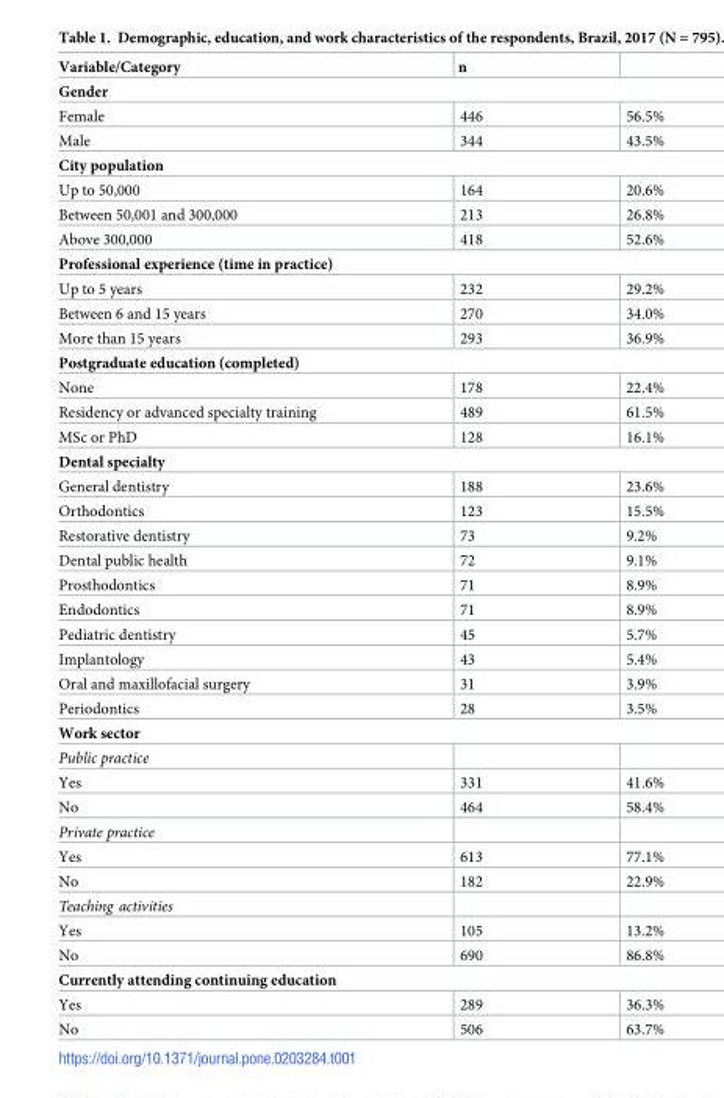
<table><thead><tr><td>Variable/Category</td><td>n</td><td></td></tr></thead><tbody><tr><td colspan="3">Gender</td></tr><tr><td>Female</td><td>446</td><td>56.5%</td></tr><tr><td>Male</td><td>344</td><td>43.5%</td></tr><tr><td colspan="3">City population</td></tr><tr><td>Up to 50,000</td><td>164</td><td>20.6%</td></tr><tr><td>Between 50,001 and 300,000</td><td>213</td><td>26.8%</td></tr><tr><td>Above 300,000</td><td>418</td><td>52.6%</td></tr><tr><td colspan="3">Professional experience (time in practice)</td></tr><tr><td>Up to 5 years</td><td>232</td><td>29.2%</td></tr><tr><td>Between 6 and 15 years</td><td>270</td><td>34.0%</td></tr><tr><td>More than 15 years</td><td>293</td><td>36.9%</td></tr><tr><td colspan="3">Postgraduate education (completed)</td></tr><tr><td>None</td><td>178</td><td>22.4%</td></tr><tr><td>Residency or advanced specialty training</td><td>489</td><td>61.5%</td></tr><tr><td>MSc or PhD</td><td>128</td><td>16.1%</td></tr><tr><td colspan="3">Dental specialty</td></tr><tr><td>General dentistry</td><td>188</td><td>23.6%</td></tr><tr><td>Orthodontics</td><td>123</td><td>15.5%</td></tr><tr><td>Restorative dentistry</td><td>73</td><td>9.2%</td></tr><tr><td>Dental public health</td><td>72</td><td>9.1%</td></tr><tr><td>Prosthodontics</td><td>71</td><td>8.9%</td></tr><tr><td>Endodontics</td><td>71</td><td>8.9%</td></tr><tr><td>Pediatric dentistry</td><td>45</td><td>5.7%</td></tr><tr><td>Implantology</td><td>43</td><td>5.4%</td></tr><tr><td>Oral and maxillofacial surgery</td><td>31</td><td>3.9%</td></tr><tr><td>Periodontics</td><td>28</td><td>3.5%</td></tr><tr><td colspan="3">Work sector</td></tr><tr><td colspan="3">Public practice</td></tr><tr><td>Yes</td><td>331</td><td>41.6%</td></tr><tr><td>No</td><td>464</td><td>58.4%</td></tr><tr><td colspan="3">Private practice</td></tr><tr><td>Yes</td><td>613</td><td>77.1%</td></tr><tr><td>No</td><td>182</td><td>22.9%</td></tr><tr><td colspan="3">Teaching activities</td></tr><tr><td>Yes</td><td>105</td><td>13.2%</td></tr><tr><td>No</td><td>690</td><td>86.8%</td></tr><tr><td colspan="3">Currently attending continuing education</td></tr><tr><td>Yes</td><td>289</td><td>36.3%</td></tr><tr><td>No</td><td>506</td><td>63.7%</td></tr></tbody></table>